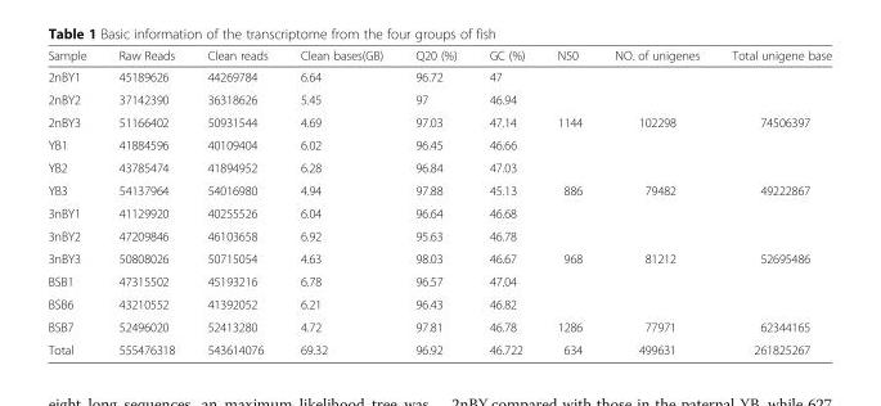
<table><thead><tr><td>Sample</td><td>Raw Reads</td><td>Clean reads</td><td>Clean bases(GB)</td><td>Q20 (%)</td><td>GC (%)</td><td>N50</td><td>NO. of unigenes</td><td>Total unigene base</td></tr></thead><tbody><tr><td>2nBY1</td><td>45189626</td><td>44269784</td><td>6.64</td><td>96.72</td><td>47</td><td></td><td></td><td></td></tr><tr><td>2nBY2</td><td>37142390</td><td>36318626</td><td>5.45</td><td>97</td><td>46.94</td><td></td><td></td><td></td></tr><tr><td>2nBY3</td><td>51166402</td><td>50931544</td><td>4.69</td><td>97.03</td><td>47.14</td><td>1144</td><td>102298</td><td>74506397</td></tr><tr><td>YB1</td><td>41884596</td><td>40109404</td><td>6.02</td><td>96.45</td><td>46.66</td><td></td><td></td><td></td></tr><tr><td>YB2</td><td>43785474</td><td>41894952</td><td>6.28</td><td>96.84</td><td>47.03</td><td></td><td></td><td></td></tr><tr><td>YB3</td><td>54137964</td><td>54016980</td><td>4.94</td><td>97.88</td><td>45.13</td><td>886</td><td>79482</td><td>49222867</td></tr><tr><td>3nBY1</td><td>41129920</td><td>40255526</td><td>6.04</td><td>96.64</td><td>46.68</td><td></td><td></td><td></td></tr><tr><td>3nBY2</td><td>47209846</td><td>46103658</td><td>6.92</td><td>95.63</td><td>46.78</td><td></td><td></td><td></td></tr><tr><td>3nBY3</td><td>50808026</td><td>50715054</td><td>4.63</td><td>98.03</td><td>46.67</td><td>968</td><td>81212</td><td>52695486</td></tr><tr><td>BSB1</td><td>47315502</td><td>45193216</td><td>6.78</td><td>96.57</td><td>47.04</td><td></td><td></td><td></td></tr><tr><td>BSB6</td><td>43210552</td><td>41392052</td><td>6.21</td><td>96.43</td><td>46.82</td><td></td><td></td><td></td></tr><tr><td>BSB7</td><td>52496020</td><td>52413280</td><td>4.72</td><td>97.81</td><td>46.78</td><td>1286</td><td>77971</td><td>62344165</td></tr><tr><td>Total</td><td>555476318</td><td>543614076</td><td>69.32</td><td>96.92</td><td>46.722</td><td>634</td><td>499631</td><td>261825267</td></tr></tbody></table>